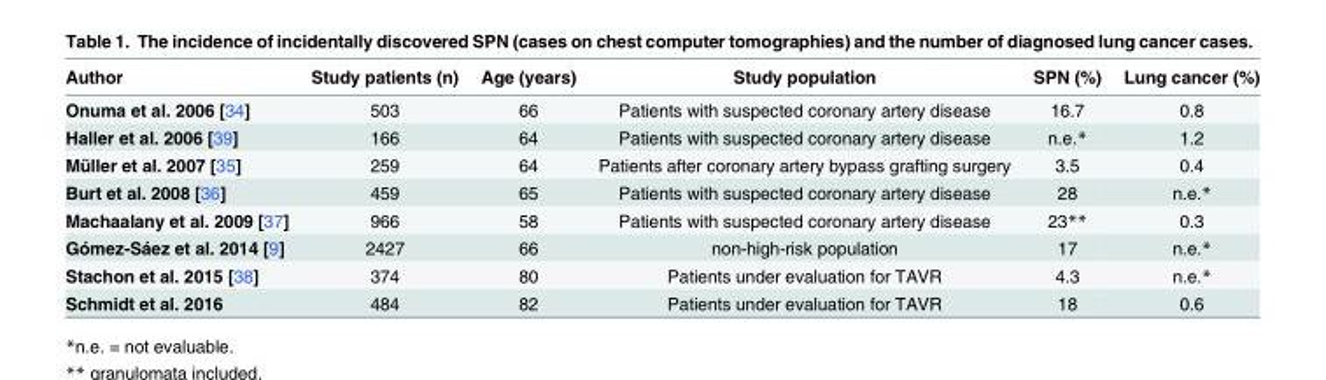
<table><thead><tr><td>Author</td><td>Study patients (n)</td><td>Age (years)</td><td>Study population</td><td>SPN (%)</td><td>Lung cancer (%)</td></tr></thead><tbody><tr><td>Onuma et al. 2006 [34]</td><td>503</td><td>66</td><td>Patients with suspected coronary artery disease</td><td>16.7</td><td>0.8</td></tr><tr><td>Haller et al. 2006 [39]</td><td>166</td><td>64</td><td>Patients with suspected coronary artery disease</td><td>n.e.*</td><td>1.2</td></tr><tr><td>Müller et al. 2007 [35]</td><td>259</td><td>64</td><td>Patients after coronary artery bypass grafting surgery</td><td>3.5</td><td>0.4</td></tr><tr><td>Burt et al. 2008 [36]</td><td>459</td><td>65</td><td>Patients with suspected coronary artery disease</td><td>28</td><td>n.e.*</td></tr><tr><td>Machaalany et al. 2009 [37]</td><td>966</td><td>58</td><td>Patients with suspected coronary artery disease</td><td>23**</td><td>0.3</td></tr><tr><td>Gómez-Sáez et al. 2014 [9]</td><td>2427</td><td>66</td><td>non-high-risk population</td><td>17</td><td>n.e.*</td></tr><tr><td>Stachon et al. 2015 [38]</td><td>374</td><td>80</td><td>Patients under evaluation for TAVR</td><td>4.3</td><td>n.e.*</td></tr><tr><td>Schmidt et al. 2016</td><td>484</td><td>82</td><td>Patients under evaluation for TAVR</td><td>18</td><td>0.6</td></tr></tbody></table>